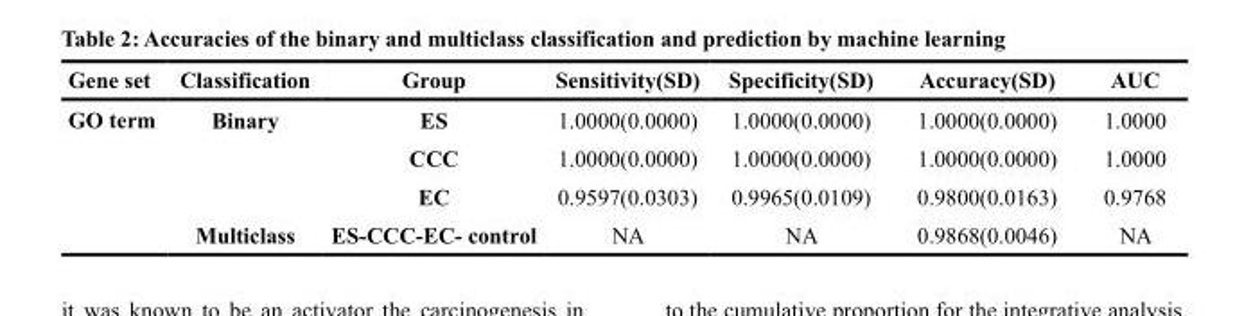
<table><thead><tr><td>Gene set</td><td>Classification</td><td>Group</td><td>Sensitivity(SD)</td><td>Specificity(SD)</td><td>Accuracy(SD)</td><td>AUC</td></tr></thead><tbody><tr><td rowspan="4">GO term</td><td>Binary</td><td>ES</td><td>1.0000(0.0000)</td><td>1.0000(0.0000)</td><td>1.0000(0.0000)</td><td>1.0000</td></tr><tr><td></td><td>CCC</td><td>1.0000(0.0000)</td><td>1.0000(0.0000)</td><td>1.0000(0.0000)</td><td>1.0000</td></tr><tr><td></td><td>EC</td><td>0.9597(0.0303)</td><td>0.9965(0.0109)</td><td>0.9800(0.0163)</td><td>0.9768</td></tr><tr><td>Multiclass</td><td>ES-CCC-EC- control</td><td>NA</td><td>NA</td><td>0.9868(0.0046)</td><td>NA</td></tr></tbody></table>